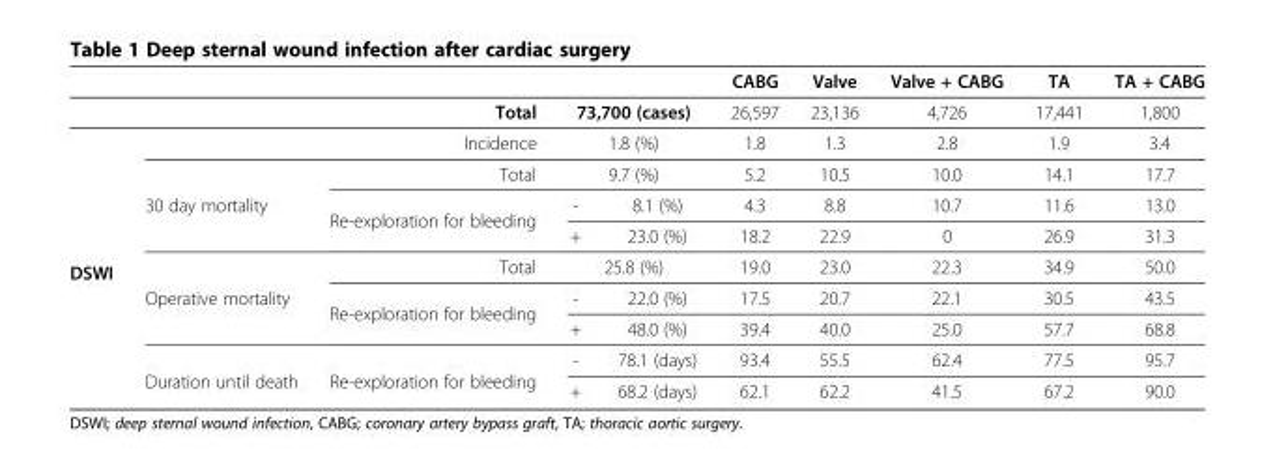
<table><thead><tr><td></td><td></td><td></td><td></td><td></td><td>CABG</td><td>Valve</td><td>Valve + CABG</td><td>TA</td><td>TA + CABG</td></tr></thead><tbody><tr><td colspan="3">Total</td><td colspan="2">73,700 (cases)</td><td>26,597</td><td>23,136</td><td>4,726</td><td>17,441</td><td>1,800</td></tr><tr><td rowspan="9">DSWI</td><td colspan="2">Incidence</td><td colspan="2">1.8 (%)</td><td>1.8</td><td>1.3</td><td>2.8</td><td>1.9</td><td>3.4</td></tr><tr><td rowspan="3">30 day mortality</td><td>Total</td><td colspan="2">9.7 (%)</td><td>5.2</td><td>10.5</td><td>10.0</td><td>14.1</td><td>17.7</td></tr><tr><td rowspan="2">Re-exploration for bleeding</td><td>-</td><td>8.1 (%)</td><td>4.3</td><td>8.8</td><td>10.7</td><td>11.6</td><td>13.0</td></tr><tr><td>+</td><td>23.0 (%)</td><td>18.2</td><td>22.9</td><td>0</td><td>26.9</td><td>31.3</td></tr><tr><td rowspan="3">Operative mortality</td><td>Total</td><td colspan="2">25.8 (%)</td><td>19.0</td><td>23.0</td><td>22.3</td><td>34.9</td><td>50.0</td></tr><tr><td rowspan="2">Re-exploration for bleeding</td><td>-</td><td>22.0 (%)</td><td>17.5</td><td>20.7</td><td>22.1</td><td>30.5</td><td>43.5</td></tr><tr><td>+</td><td>48.0 (%)</td><td>39.4</td><td>40.0</td><td>25.0</td><td>57.7</td><td>68.8</td></tr><tr><td rowspan="2">Duration until death</td><td rowspan="2">Re-exploration for bleeding</td><td>-</td><td>78.1 (days)</td><td>93.4</td><td>55.5</td><td>62.4</td><td>77.5</td><td>95.7</td></tr><tr><td>+</td><td>68.2 (days)</td><td>62.1</td><td>62.2</td><td>41.5</td><td>67.2</td><td>90.0</td></tr></tbody></table>